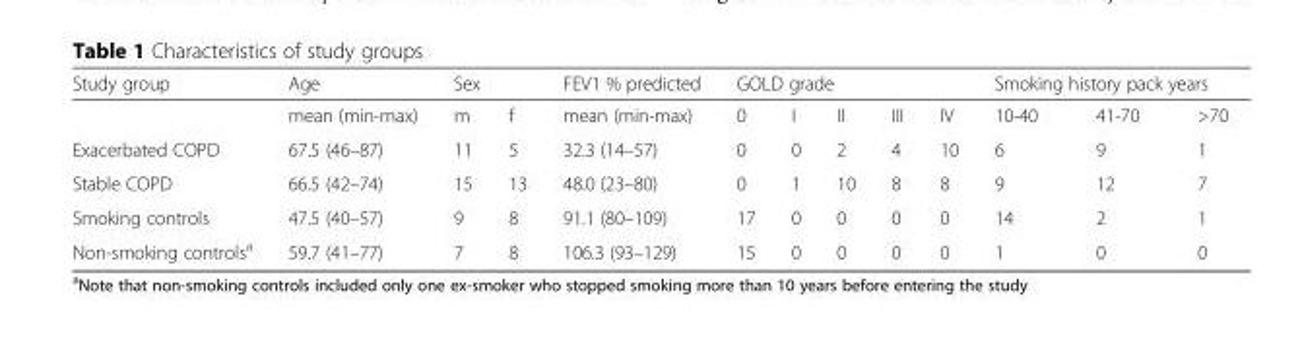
<table><thead><tr><td rowspan="2">Study group</td><td rowspan="2">Age mean (min-max)</td><td colspan="2">Sex</td><td rowspan="2">FEV1 % predicted mean (min-max)</td><td colspan="5">GOLD grade</td><td colspan="3">Smoking history pack years</td></tr><tr><td>m</td><td>f</td><td>0</td><td>I</td><td>II</td><td>III</td><td>IV</td><td>10-40</td><td>41-70</td><td>&gt;70</td></tr></thead><tbody><tr><td>Exacerbated COPD</td><td>67.5 (46–87)</td><td>11</td><td>5</td><td>32.3 (14–57)</td><td>0</td><td>0</td><td>2</td><td>4</td><td>10</td><td>6</td><td>9</td><td>1</td></tr><tr><td>Stable COPD</td><td>66.5 (42–74)</td><td>15</td><td>13</td><td>48.0 (23–80)</td><td>0</td><td>1</td><td>10</td><td>8</td><td>8</td><td>9</td><td>12</td><td>7</td></tr><tr><td>Smoking controls</td><td>47.5 (40–57)</td><td>9</td><td>8</td><td>91.1 (80–109)</td><td>17</td><td>0</td><td>0</td><td>0</td><td>0</td><td>14</td><td>2</td><td>1</td></tr><tr><td>Non-smoking controls<sup>a</sup></td><td>59.7 (41–77)</td><td>7</td><td>8</td><td>106.3 (93–129)</td><td>15</td><td>0</td><td>0</td><td>0</td><td>0</td><td>1</td><td>0</td><td>0</td></tr></tbody></table>